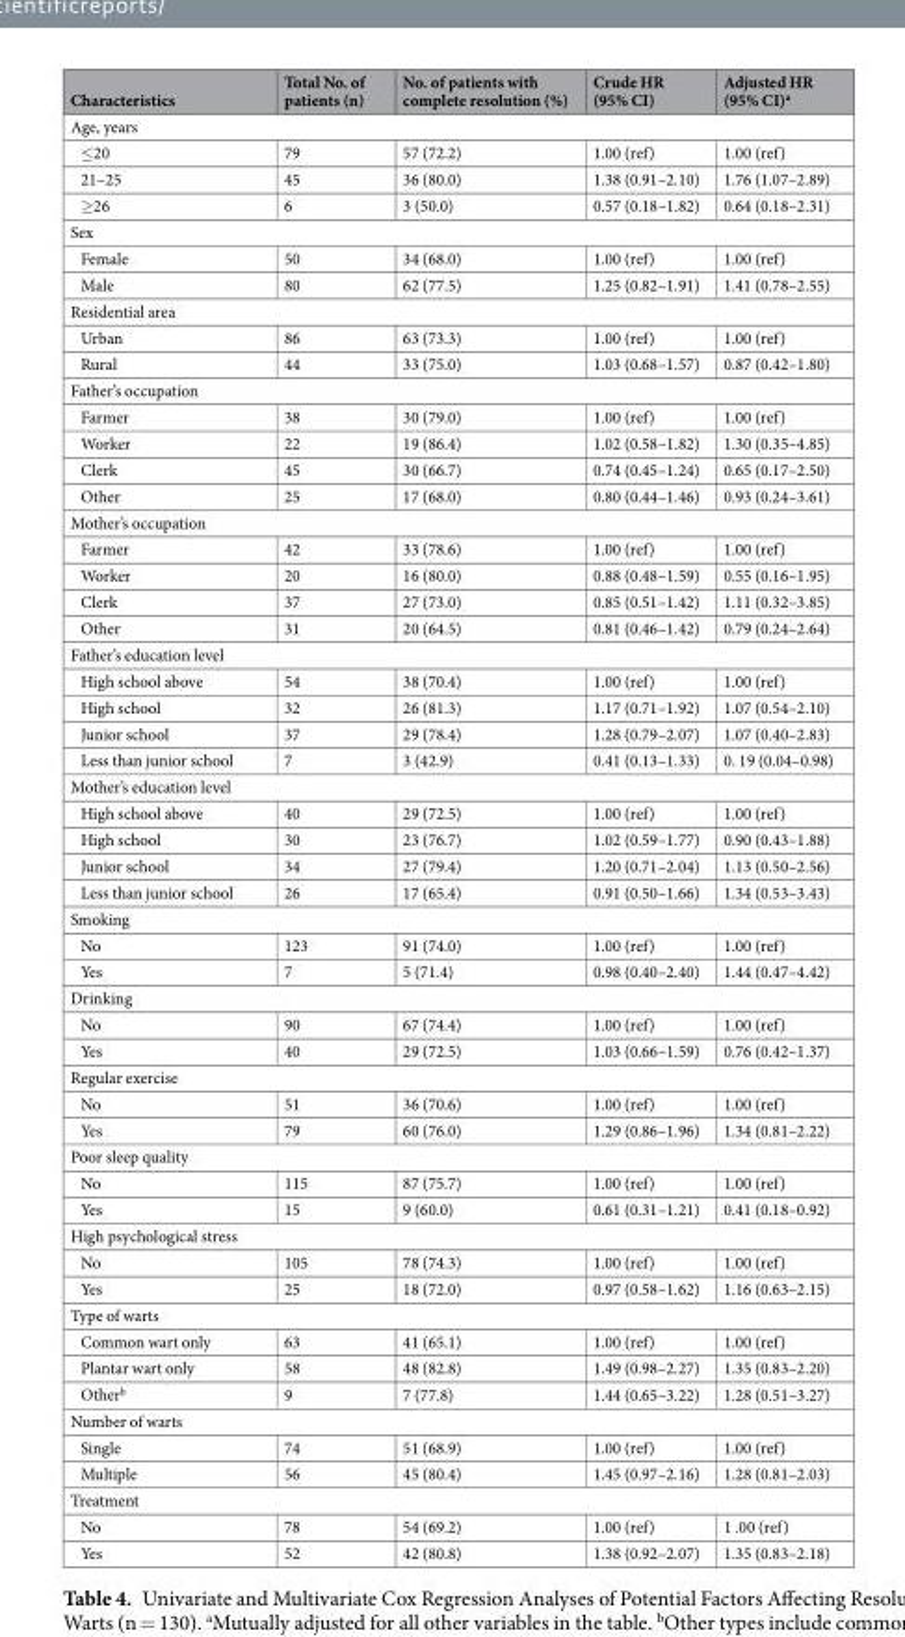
<table><thead><tr><td>Characteristics</td><td>Total No. of patients (n)</td><td>No. of patients with complete resolution (%)</td><td>Crude HR (95% CI)</td><td>Adjusted HR (95% CI)<sup>a</sup></td></tr></thead><tbody><tr><td colspan="5">Age, years</td></tr><tr><td>≤20</td><td>79</td><td>57 (72.2)</td><td>1.00 (ref)</td><td>1.00 (ref)</td></tr><tr><td>21–25</td><td>45</td><td>36 (80.0)</td><td>1.38 (0.91–2.10)</td><td>1.76 (1.07–2.89)</td></tr><tr><td>≥26</td><td>6</td><td>3 (50.0)</td><td>0.57 (0.18–1.82)</td><td>0.64 (0.18–2.31)</td></tr><tr><td colspan="5">Sex</td></tr><tr><td>Female</td><td>50</td><td>34 (68.0)</td><td>1.00 (ref)</td><td>1.00 (ref)</td></tr><tr><td>Male</td><td>80</td><td>62 (77.5)</td><td>1.25 (0.82–1.91)</td><td>1.41 (0.78–2.55)</td></tr><tr><td colspan="5">Residential area</td></tr><tr><td>Urban</td><td>86</td><td>63 (73.3)</td><td>1.00 (ref)</td><td>1.00 (ref)</td></tr><tr><td>Rural</td><td>44</td><td>33 (75.0)</td><td>1.03 (0.68–1.57)</td><td>0.87 (0.42–1.80)</td></tr><tr><td colspan="5">Father’s occupation</td></tr><tr><td>Farmer</td><td>38</td><td>30 (79.0)</td><td>1.00 (ref)</td><td>1.00 (ref)</td></tr><tr><td>Worker</td><td>22</td><td>19 (86.4)</td><td>1.02 (0.58–1.82)</td><td>1.30 (0.35–4.85)</td></tr><tr><td>Clerk</td><td>45</td><td>30 (66.7)</td><td>0.74 (0.45–1.24)</td><td>0.65 (0.17–2.50)</td></tr><tr><td>Other</td><td>25</td><td>17 (68.0)</td><td>0.80 (0.44–1.46)</td><td>0.93 (0.24–3.61)</td></tr><tr><td colspan="5">Mother’s occupation</td></tr><tr><td>Farmer</td><td>42</td><td>33 (78.6)</td><td>1.00 (ref)</td><td>1.00 (ref)</td></tr><tr><td>Worker</td><td>20</td><td>16 (80.0)</td><td>0.88 (0.48–1.59)</td><td>0.55 (0.16–1.95)</td></tr><tr><td>Clerk</td><td>37</td><td>27 (73.0)</td><td>0.85 (0.51–1.42)</td><td>1.11 (0.32–3.85)</td></tr><tr><td>Other</td><td>31</td><td>20 (64.5)</td><td>0.81 (0.46–1.42)</td><td>0.79 (0.24–2.64)</td></tr><tr><td colspan="5">Father’s education level</td></tr><tr><td>High school above</td><td>54</td><td>38 (70.4)</td><td>1.00 (ref)</td><td>1.00 (ref)</td></tr><tr><td>High school</td><td>32</td><td>26 (81.3)</td><td>1.17 (0.71–1.92)</td><td>1.07 (0.54–2.10)</td></tr><tr><td>Junior school</td><td>37</td><td>29 (78.4)</td><td>1.28 (0.79–2.07)</td><td>1.07 (0.40–2.83)</td></tr><tr><td>Less than junior school</td><td>7</td><td>3 (42.9)</td><td>0.41 (0.13–1.33)</td><td>0. 19 (0.04–0.98)</td></tr><tr><td colspan="5">Mother’s education level</td></tr><tr><td>High school above</td><td>40</td><td>29 (72.5)</td><td>1.00 (ref)</td><td>1.00 (ref)</td></tr><tr><td>High school</td><td>30</td><td>23 (76.7)</td><td>1.02 (0.59–1.77)</td><td>0.90 (0.43–1.88)</td></tr><tr><td>Junior school</td><td>34</td><td>27 (79.4)</td><td>1.20 (0.71–2.04)</td><td>1.13 (0.50–2.56)</td></tr><tr><td>Less than junior school</td><td>26</td><td>17 (65.4)</td><td>0.91 (0.50–1.66)</td><td>1.34 (0.53–3.43)</td></tr><tr><td colspan="5">Smoking</td></tr><tr><td>No</td><td>123</td><td>91 (74.0)</td><td>1.00 (ref)</td><td>1.00 (ref)</td></tr><tr><td>Yes</td><td>7</td><td>5 (71.4)</td><td>0.98 (0.40–2.40)</td><td>1.44 (0.47–4.42)</td></tr><tr><td colspan="5">Drinking</td></tr><tr><td>No</td><td>90</td><td>67 (74.4)</td><td>1.00 (ref)</td><td>1.00 (ref)</td></tr><tr><td>Yes</td><td>40</td><td>29 (72.5)</td><td>1.03 (0.66–1.59)</td><td>0.76 (0.42–1.37)</td></tr><tr><td colspan="5">Regular exercise</td></tr><tr><td>No</td><td>51</td><td>36 (70.6)</td><td>1.00 (ref)</td><td>1.00 (ref)</td></tr><tr><td>Yes</td><td>79</td><td>60 (76.0)</td><td>1.29 (0.86–1.96)</td><td>1.34 (0.81–2.22)</td></tr><tr><td colspan="5">Poor sleep quality</td></tr><tr><td>No</td><td>115</td><td>87 (75.7)</td><td>1.00 (ref)</td><td>1.00 (ref)</td></tr><tr><td>Yes</td><td>15</td><td>9 (60.0)</td><td>0.61 (0.31–1.21)</td><td>0.41 (0.18–0.92)</td></tr><tr><td colspan="5">High psychological stress</td></tr><tr><td>No</td><td>105</td><td>78 (74.3)</td><td>1.00 (ref)</td><td>1.00 (ref)</td></tr><tr><td>Yes</td><td>25</td><td>18 (72.0)</td><td>0.97 (0.58–1.62)</td><td>1.16 (0.63–2.15)</td></tr><tr><td colspan="5">Type of warts</td></tr><tr><td>Common wart only</td><td>63</td><td>41 (65.1)</td><td>1.00 (ref)</td><td>1.00 (ref)</td></tr><tr><td>Plantar wart only</td><td>58</td><td>48 (82.8)</td><td>1.49 (0.98–2.27)</td><td>1.35 (0.83–2.20)</td></tr><tr><td>Other<sup>b</sup></td><td>9</td><td>7 (77.8)</td><td>1.44 (0.65–3.22)</td><td>1.28 (0.51–3.27)</td></tr><tr><td colspan="5">Number of warts</td></tr><tr><td>Single</td><td>74</td><td>51 (68.9)</td><td>1.00 (ref)</td><td>1.00 (ref)</td></tr><tr><td>Multiple</td><td>56</td><td>45 (80.4)</td><td>1.45 (0.97–2.16)</td><td>1.28 (0.81–2.03)</td></tr><tr><td colspan="5">Treatment</td></tr><tr><td>No</td><td>78</td><td>54 (69.2)</td><td>1.00 (ref)</td><td>1 .00 (ref)</td></tr><tr><td>Yes</td><td>52</td><td>42 (80.8)</td><td>1.38 (0.92–2.07)</td><td>1.35 (0.83–2.18)</td></tr></tbody></table>